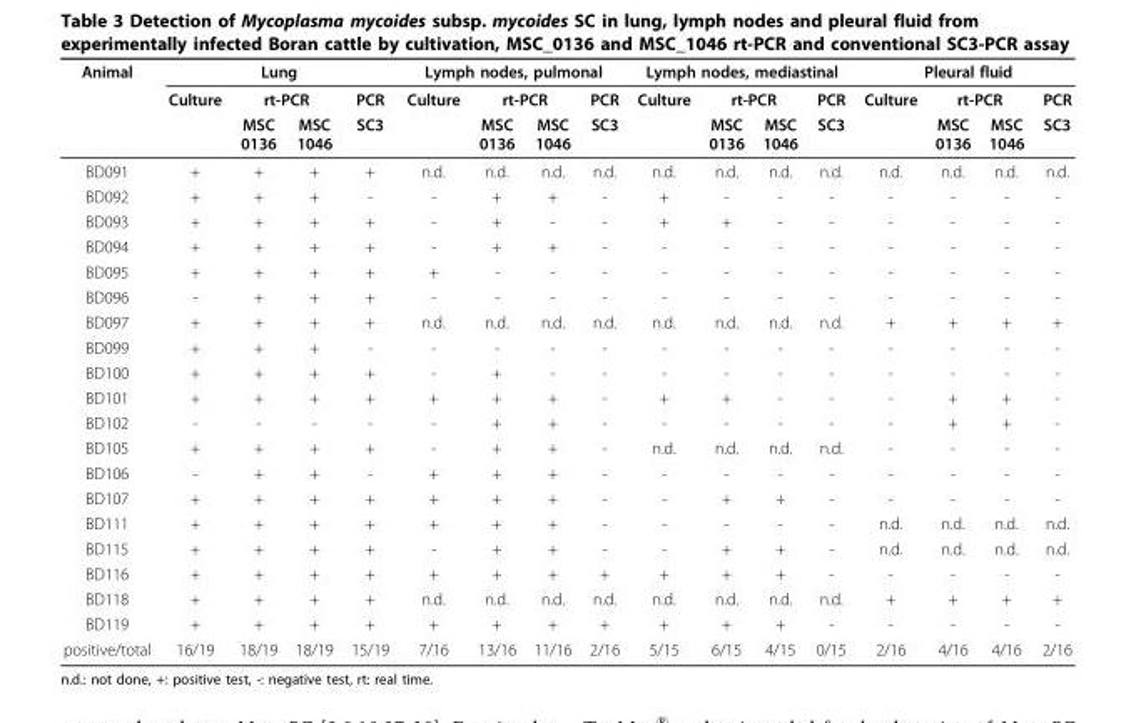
<table><thead><tr><td rowspan="3">Animal</td><td colspan="4">Lung</td><td colspan="4">Lymph nodes, pulmonal</td><td colspan="4">Lymph nodes, mediastinal</td><td colspan="4">Pleural fluid</td></tr><tr><td rowspan="2">Culture</td><td colspan="2">rt-PCR</td><td rowspan="2">PCR SC3</td><td rowspan="2">Culture</td><td colspan="2">rt-PCR</td><td rowspan="2">PCR SC3</td><td rowspan="2">Culture</td><td colspan="2">rt-PCR</td><td rowspan="2">PCR SC3</td><td rowspan="2">Culture</td><td colspan="2">rt-PCR</td><td rowspan="2">PCR SC3</td></tr><tr><td>MSC 0136</td><td>MSC 1046</td><td>MSC 0136</td><td>MSC 1046</td><td>MSC 0136</td><td>MSC 1046</td><td>MSC 0136</td><td>MSC 1046</td></tr></thead><tbody><tr><td>BD091</td><td>+</td><td>+</td><td>+</td><td>+</td><td>n.d.</td><td>n.d.</td><td>n.d.</td><td>n.d.</td><td>n.d.</td><td>n.d.</td><td>n.d.</td><td>n.d.</td><td>n.d.</td><td>n.d.</td><td>n.d.</td><td>n.d.</td></tr><tr><td>BD092</td><td>+</td><td>+</td><td>+</td><td>-</td><td>-</td><td>+</td><td>+</td><td>-</td><td>+</td><td>-</td><td>-</td><td>-</td><td>-</td><td>-</td><td>-</td><td>-</td></tr><tr><td>BD093</td><td>+</td><td>+</td><td>+</td><td>+</td><td>-</td><td>+</td><td>-</td><td>-</td><td>+</td><td>+</td><td>-</td><td>-</td><td>-</td><td>-</td><td>-</td><td>-</td></tr><tr><td>BD094</td><td>+</td><td>+</td><td>+</td><td>+</td><td>-</td><td>+</td><td>+</td><td>-</td><td>-</td><td>-</td><td>-</td><td>-</td><td>-</td><td>-</td><td>-</td><td>-</td></tr><tr><td>BD095</td><td>+</td><td>+</td><td>+</td><td>+</td><td>+</td><td>-</td><td>-</td><td>-</td><td>-</td><td>-</td><td>-</td><td>-</td><td>-</td><td>-</td><td>-</td><td>-</td></tr><tr><td>BD096</td><td>-</td><td>+</td><td>+</td><td>+</td><td>-</td><td>-</td><td>-</td><td>-</td><td>-</td><td>-</td><td>-</td><td>-</td><td>-</td><td>-</td><td>-</td><td>-</td></tr><tr><td>BD097</td><td>+</td><td>+</td><td>+</td><td>+</td><td>n.d.</td><td>n.d.</td><td>n.d.</td><td>n.d.</td><td>n.d.</td><td>n.d.</td><td>n.d.</td><td>n.d.</td><td>+</td><td>+</td><td>+</td><td>+</td></tr><tr><td>BD099</td><td>+</td><td>+</td><td>+</td><td>-</td><td>-</td><td>-</td><td>-</td><td>-</td><td>-</td><td>-</td><td>-</td><td>-</td><td>-</td><td>-</td><td>-</td><td>-</td></tr><tr><td>BD100</td><td>+</td><td>+</td><td>+</td><td>+</td><td>-</td><td>+</td><td>-</td><td>-</td><td>-</td><td>-</td><td>-</td><td>-</td><td>-</td><td>-</td><td>-</td><td>-</td></tr><tr><td>BD101</td><td>+</td><td>+</td><td>+</td><td>+</td><td>+</td><td>+</td><td>+</td><td>-</td><td>+</td><td>+</td><td>-</td><td>-</td><td>-</td><td>+</td><td>+</td><td>-</td></tr><tr><td>BD102</td><td>-</td><td>-</td><td>-</td><td>-</td><td>-</td><td>+</td><td>+</td><td>-</td><td>-</td><td>-</td><td>-</td><td>-</td><td>-</td><td>+</td><td>+</td><td>-</td></tr><tr><td>BD105</td><td>+</td><td>+</td><td>+</td><td>+</td><td>-</td><td>+</td><td>+</td><td>-</td><td>n.d.</td><td>n.d.</td><td>n.d.</td><td>n.d.</td><td>-</td><td>-</td><td>-</td><td>-</td></tr><tr><td>BD106</td><td>-</td><td>+</td><td>+</td><td>-</td><td>+</td><td>+</td><td>+</td><td>-</td><td>-</td><td>-</td><td>-</td><td>-</td><td>-</td><td>-</td><td>-</td><td>-</td></tr><tr><td>BD107</td><td>+</td><td>+</td><td>+</td><td>+</td><td>+</td><td>+</td><td>+</td><td>-</td><td>-</td><td>+</td><td>+</td><td>-</td><td>-</td><td>-</td><td>-</td><td>-</td></tr><tr><td>BD111</td><td>+</td><td>+</td><td>+</td><td>+</td><td>+</td><td>+</td><td>+</td><td>-</td><td>-</td><td>-</td><td>-</td><td>-</td><td>n.d.</td><td>n.d.</td><td>n.d.</td><td>n.d.</td></tr><tr><td>BD115</td><td>+</td><td>+</td><td>+</td><td>+</td><td>-</td><td>+</td><td>+</td><td>-</td><td>-</td><td>+</td><td>+</td><td>-</td><td>n.d.</td><td>n.d.</td><td>n.d.</td><td>n.d.</td></tr><tr><td>BD116</td><td>+</td><td>+</td><td>+</td><td>+</td><td>+</td><td>+</td><td>+</td><td>+</td><td>+</td><td>+</td><td>+</td><td>-</td><td>-</td><td>-</td><td>-</td><td>-</td></tr><tr><td>BD118</td><td>+</td><td>+</td><td>+</td><td>+</td><td>n.d.</td><td>n.d.</td><td>n.d.</td><td>n.d.</td><td>n.d.</td><td>n.d.</td><td>n.d.</td><td>n.d.</td><td>+</td><td>+</td><td>+</td><td>+</td></tr><tr><td>BD119</td><td>+</td><td>+</td><td>+</td><td>+</td><td>+</td><td>+</td><td>+</td><td>+</td><td>+</td><td>+</td><td>+</td><td>-</td><td>-</td><td>-</td><td>-</td><td>-</td></tr><tr><td>positive/total</td><td>16/19</td><td>18/19</td><td>18/19</td><td>15/19</td><td>7/16</td><td>13/16</td><td>11/16</td><td>2/16</td><td>5/15</td><td>6/15</td><td>4/15</td><td>0/15</td><td>2/16</td><td>4/16</td><td>4/16</td><td>2/16</td></tr></tbody></table>